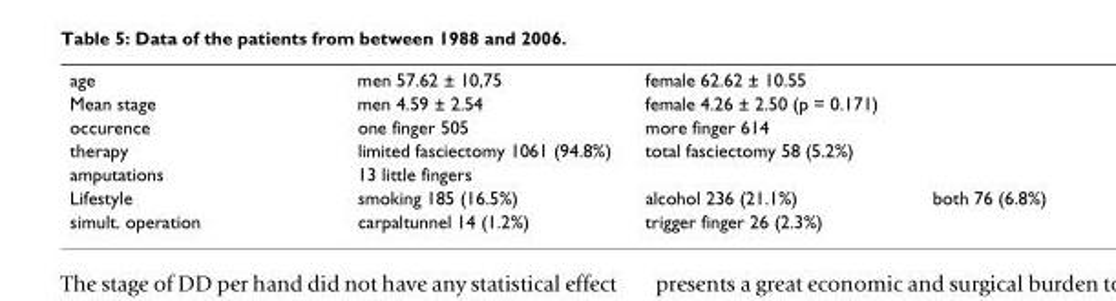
<table><tbody><tr><td>age</td><td>men 57.62 ± 10,75</td><td colspan="2">female 62.62 ± 10.55</td></tr><tr><td>Mean stage</td><td>men 4.59 ± 2.54</td><td colspan="2">female 4.26 ± 2.50 (p = 0.171)</td></tr><tr><td>occurence</td><td>one finger 505</td><td colspan="2">more finger 614</td></tr><tr><td>therapy</td><td>limited fasciectomy 1061 (94.8%)</td><td colspan="2">total fasciectomy 58 (5.2%)</td></tr><tr><td>amputations</td><td colspan="3">13 little fingers</td></tr><tr><td>Lifestyle</td><td>smoking 185 (16.5%)</td><td>alcohol 236 (21.1%)</td><td>both 76 (6.8%)</td></tr><tr><td>simult. operation</td><td>carpaltunnel 14 (1.2%)</td><td colspan="2">trigger finger 26 (2.3%)</td></tr></tbody></table>